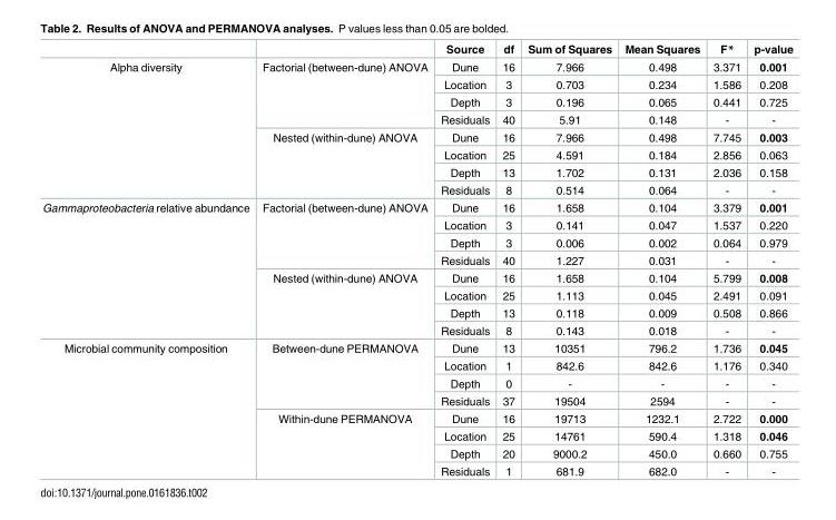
<table><thead><tr><td></td><td></td><td>Source</td><td>df</td><td>Sum of Squares</td><td>Mean Squares</td><td>F*</td><td>p-value</td></tr></thead><tbody><tr><td rowspan="8">Alpha diversity</td><td rowspan="4">Factorial (between-dune) ANOVA</td><td>Dune</td><td>16</td><td>7.966</td><td>0.498</td><td>3.371</td><td>0.001</td></tr><tr><td>Location</td><td>3</td><td>0.703</td><td>0.234</td><td>1.586</td><td>0.208</td></tr><tr><td>Depth</td><td>3</td><td>0.196</td><td>0.065</td><td>0.441</td><td>0.725</td></tr><tr><td>Residuals</td><td>40</td><td>5.91</td><td>0.148</td><td>-</td><td>-</td></tr><tr><td rowspan="4">Nested (within-dune) ANOVA</td><td>Dune</td><td>16</td><td>7.966</td><td>0.498</td><td>7.745</td><td>0.003</td></tr><tr><td>Location</td><td>25</td><td>4.591</td><td>0.184</td><td>2.856</td><td>0.063</td></tr><tr><td>Depth</td><td>13</td><td>1.702</td><td>0.131</td><td>2.036</td><td>0.158</td></tr><tr><td>Residuals</td><td>8</td><td>0.514</td><td>0.064</td><td>-</td><td>-</td></tr><tr><td rowspan="8">Gammaproteobacteria relative abundance</td><td rowspan="4">Factorial (between-dune) ANOVA</td><td>Dune</td><td>16</td><td>1.658</td><td>0.104</td><td>3.379</td><td>0.001</td></tr><tr><td>Location</td><td>3</td><td>0.141</td><td>0.047</td><td>1.537</td><td>0.220</td></tr><tr><td>Depth</td><td>3</td><td>0.006</td><td>0.002</td><td>0.064</td><td>0.979</td></tr><tr><td>Residuals</td><td>40</td><td>1.227</td><td>0.031</td><td>-</td><td>-</td></tr><tr><td rowspan="4">Nested (within-dune) ANOVA</td><td>Dune</td><td>16</td><td>1.658</td><td>0.104</td><td>5.799</td><td>0.008</td></tr><tr><td>Location</td><td>25</td><td>1.113</td><td>0.045</td><td>2.491</td><td>0.091</td></tr><tr><td>Depth</td><td>13</td><td>0.118</td><td>0.009</td><td>0.508</td><td>0.866</td></tr><tr><td>Residuals</td><td>8</td><td>0.143</td><td>0.018</td><td>-</td><td>-</td></tr><tr><td rowspan="8">Microbial community composition</td><td rowspan="4">Between-dune PERMANOVA</td><td>Dune</td><td>13</td><td>10351</td><td>796.2</td><td>1.736</td><td>0.045</td></tr><tr><td>Location</td><td>1</td><td>842.6</td><td>842.6</td><td>1.176</td><td>0.340</td></tr><tr><td>Depth</td><td>0</td><td>-</td><td>-</td><td>-</td><td>-</td></tr><tr><td>Residuals</td><td>37</td><td>19504</td><td>2594</td><td>-</td><td>-</td></tr><tr><td rowspan="4">Within-dune PERMANOVA</td><td>Dune</td><td>16</td><td>19713</td><td>1232.1</td><td>2.722</td><td>0.000</td></tr><tr><td>Location</td><td>25</td><td>14761</td><td>590.4</td><td>1.318</td><td>0.046</td></tr><tr><td>Depth</td><td>20</td><td>9000.2</td><td>450.0</td><td>0.660</td><td>0.755</td></tr><tr><td>Residuals</td><td>1</td><td>681.9</td><td>682.0</td><td>-</td><td>-</td></tr></tbody></table>